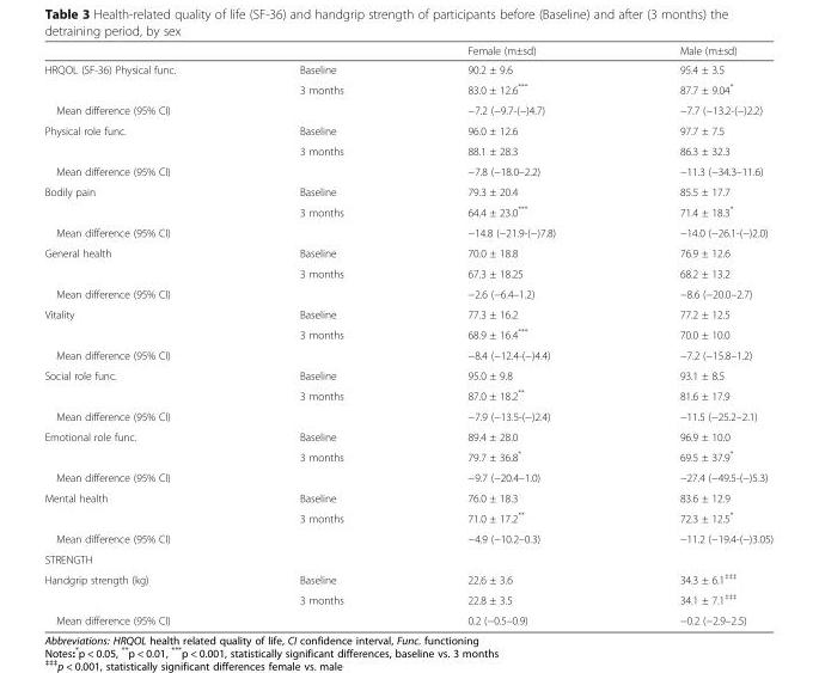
<table><thead><tr><td></td><td></td><td>Female (m±sd)</td><td>Male (m±sd)</td></tr></thead><tbody><tr><td rowspan="2">HRQOL (SF-36) Physical func.</td><td>Baseline</td><td>90.2 ± 9.6</td><td>95.4 ± 3.5</td></tr><tr><td>3 months</td><td>83.0 ± 12.6***</td><td>87.7 ± 9.04*</td></tr><tr><td colspan="2">Mean difference (95% CI)</td><td>−7.2 (−9.7-(−)4.7)</td><td>−7.7 (−13.2-(−)2.2)</td></tr><tr><td rowspan="2">Physical role func.</td><td>Baseline</td><td>96.0 ± 12.6</td><td>97.7 ± 7.5</td></tr><tr><td>3 months</td><td>88.1 ± 28.3</td><td>86.3 ± 32.3</td></tr><tr><td colspan="2">Mean difference (95% CI)</td><td>−7.8 (−18.0–2.2)</td><td>−11.3 (−34.3–11.6)</td></tr><tr><td rowspan="2">Bodily pain</td><td>Baseline</td><td>79.3 ± 20.4</td><td>85.5 ± 17.7</td></tr><tr><td>3 months</td><td>64.4 ± 23.0***</td><td>71.4 ± 18.3*</td></tr><tr><td colspan="2">Mean difference (95% CI)</td><td>−14.8 (−21.9-(−)7.8)</td><td>−14.0 (−26.1-(−)2.0)</td></tr><tr><td rowspan="2">General health</td><td>Baseline</td><td>70.0 ± 18.8</td><td>76.9 ± 12.6</td></tr><tr><td>3 months</td><td>67.3 ± 18.25</td><td>68.2 ± 13.2</td></tr><tr><td colspan="2">Mean difference (95% CI)</td><td>−2.6 (−6.4–1.2)</td><td>−8.6 (−20.0–2.7)</td></tr><tr><td rowspan="2">Vitality</td><td>Baseline</td><td>77.3 ± 16.2</td><td>77.2 ± 12.5</td></tr><tr><td>3 months</td><td>68.9 ± 16.4***</td><td>70.0 ± 10.0</td></tr><tr><td colspan="2">Mean difference (95% CI)</td><td>−8.4 (−12.4-(−)4.4)</td><td>−7.2 (−15.8–1.2)</td></tr><tr><td rowspan="2">Social role func.</td><td>Baseline</td><td>95.0 ± 9.8</td><td>93.1 ± 8.5</td></tr><tr><td>3 months</td><td>87.0 ± 18.2**</td><td>81.6 ± 17.9</td></tr><tr><td colspan="2">Mean difference (95% CI)</td><td>−7.9 (−13.5-(−)2.4)</td><td>−11.5 (−25.2–2.1)</td></tr><tr><td rowspan="2">Emotional role func.</td><td>Baseline</td><td>89.4 ± 28.0</td><td>96.9 ± 10.0</td></tr><tr><td>3 months</td><td>79.7 ± 36.8*</td><td>69.5 ± 37.9*</td></tr><tr><td colspan="2">Mean difference (95% CI)</td><td>−9.7 (−20.4–1.0)</td><td>−27.4 (−49.5-(−)5.3)</td></tr><tr><td rowspan="2">Mental health</td><td>Baseline</td><td>76.0 ± 18.3</td><td>83.6 ± 12.9</td></tr><tr><td>3 months</td><td>71.0 ± 17.2**</td><td>72.3 ± 12.5*</td></tr><tr><td colspan="2">Mean difference (95% CI)</td><td>−4.9 (−10.2–0.3)</td><td>−11.2 (−19.4-(−)3.05)</td></tr><tr><td colspan="4">STRENGTH</td></tr><tr><td rowspan="2">Handgrip strength (kg)</td><td>Baseline</td><td>22.6 ± 3.6</td><td>34.3 ± 6.1<sup>‡‡‡</sup></td></tr><tr><td>3 months</td><td>22.8 ± 3.5</td><td>34.1 ± 7.1<sup>‡‡‡</sup></td></tr><tr><td colspan="2">Mean difference (95% CI)</td><td>0.2 (−0.5–0.9)</td><td>−0.2 (−2.9–2.5)</td></tr></tbody></table>